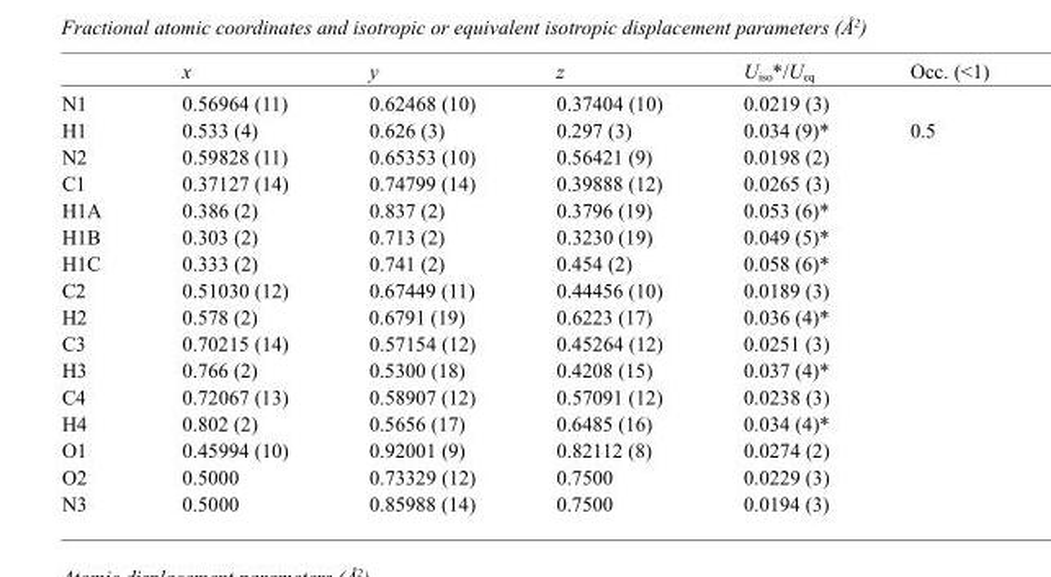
<table><thead><tr><td></td><td>x</td><td>y</td><td>z</td><td>U<sub>iso</sub>*/U<sub>eq</sub></td><td>Occ. (&lt;1)</td></tr></thead><tbody><tr><td>N1</td><td>0.56964 (11)</td><td>0.62468 (10)</td><td>0.37404 (10)</td><td>0.0219 (3)</td><td></td></tr><tr><td>H1</td><td>0.533 (4)</td><td>0.626 (3)</td><td>0.297 (3)</td><td>0.034 (9)*</td><td>0.5</td></tr><tr><td>N2</td><td>0.59828 (11)</td><td>0.65353 (10)</td><td>0.56421 (9)</td><td>0.0198 (2)</td><td></td></tr><tr><td>C1</td><td>0.37127 (14)</td><td>0.74799 (14)</td><td>0.39888 (12)</td><td>0.0265 (3)</td><td></td></tr><tr><td>H1A</td><td>0.386 (2)</td><td>0.837 (2)</td><td>0.3796 (19)</td><td>0.053 (6)*</td><td></td></tr><tr><td>H1B</td><td>0.303 (2)</td><td>0.713 (2)</td><td>0.3230 (19)</td><td>0.049 (5)*</td><td></td></tr><tr><td>H1C</td><td>0.333 (2)</td><td>0.741 (2)</td><td>0.454 (2)</td><td>0.058 (6)*</td><td></td></tr><tr><td>C2</td><td>0.51030 (12)</td><td>0.67449 (11)</td><td>0.44456 (10)</td><td>0.0189 (3)</td><td></td></tr><tr><td>H2</td><td>0.578 (2)</td><td>0.6791 (19)</td><td>0.6223 (17)</td><td>0.036 (4)*</td><td></td></tr><tr><td>C3</td><td>0.70215 (14)</td><td>0.57154 (12)</td><td>0.45264 (12)</td><td>0.0251 (3)</td><td></td></tr><tr><td>H3</td><td>0.766 (2)</td><td>0.5300 (18)</td><td>0.4208 (15)</td><td>0.037 (4)*</td><td></td></tr><tr><td>C4</td><td>0.72067 (13)</td><td>0.58907 (12)</td><td>0.57091 (12)</td><td>0.0238 (3)</td><td></td></tr><tr><td>H4</td><td>0.802 (2)</td><td>0.5656 (17)</td><td>0.6485 (16)</td><td>0.034 (4)*</td><td></td></tr><tr><td>O1</td><td>0.45994 (10)</td><td>0.92001 (9)</td><td>0.82112 (8)</td><td>0.0274 (2)</td><td></td></tr><tr><td>O2</td><td>0.5000</td><td>0.73329 (12)</td><td>0.7500</td><td>0.0229 (3)</td><td></td></tr><tr><td>N3</td><td>0.5000</td><td>0.85988 (14)</td><td>0.7500</td><td>0.0194 (3)</td><td></td></tr></tbody></table>